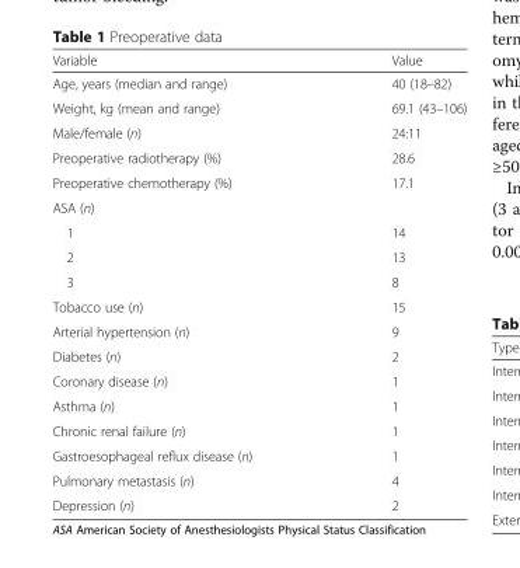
<table><thead><tr><td>Variable</td><td>Value</td></tr></thead><tbody><tr><td>Age, years (median and range)</td><td>40 (18–82)</td></tr><tr><td>Weight, kg (mean and range)</td><td>69.1 (43–106)</td></tr><tr><td>Male/female (n)</td><td>24:11</td></tr><tr><td>Preoperative radiotherapy (%)</td><td>28.6</td></tr><tr><td>Preoperative chemotherapy (%)</td><td>17.1</td></tr><tr><td colspan="2">ASA (n)</td></tr><tr><td>1</td><td>14</td></tr><tr><td>2</td><td>13</td></tr><tr><td>3</td><td>8</td></tr><tr><td>Tobacco use (n)</td><td>15</td></tr><tr><td>Arterial hypertension (n)</td><td>9</td></tr><tr><td>Diabetes (n)</td><td>2</td></tr><tr><td>Coronary disease (n)</td><td>1</td></tr><tr><td>Asthma (n)</td><td>1</td></tr><tr><td>Chronic renal failure (n)</td><td>1</td></tr><tr><td>Gastroesophageal reflux disease (n)</td><td>1</td></tr><tr><td>Pulmonary metastasis (n)</td><td>4</td></tr><tr><td>Depression (n)</td><td>2</td></tr></tbody></table>